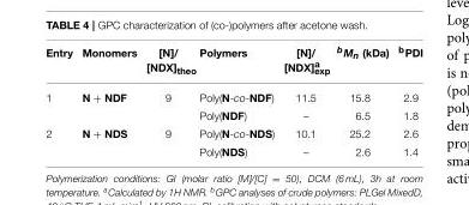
<table><thead><tr><td>Entry</td><td>Monomers</td><td>[N]/ [NDX]<sub>theo</sub></td><td>Polymers</td><td>[N]/ [NDX]<sup>a</sup><sub>exp</sub></td><td>bMn (kDa)</td><td><sup>b</sup>PDI</td></tr></thead><tbody><tr><td rowspan="2">1</td><td>N + NDF</td><td>9</td><td>Poly(N-co-NDF)</td><td>11.5</td><td>15.8</td><td>2.9</td></tr><tr><td></td><td></td><td>Poly(NDF)</td><td>–</td><td>6.5</td><td>1.8</td></tr><tr><td rowspan="2">2</td><td>N + NDS</td><td>9</td><td>Poly(N-co-NDS)</td><td>10.1</td><td>25.2</td><td>2.6</td></tr><tr><td></td><td></td><td>Poly(NDS)</td><td>–</td><td>2.6</td><td>1.4</td></tr></tbody></table>